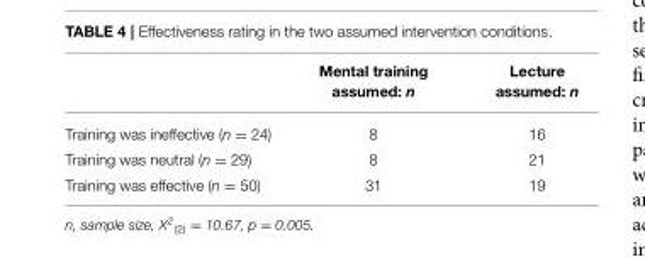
<table><thead><tr><td></td><td>Mental training assumed: n</td><td>Lecture assumed: n</td></tr></thead><tbody><tr><td>Training was ineffective (n = 24)</td><td>8</td><td>16</td></tr><tr><td>Training was neutral (n = 29)</td><td>8</td><td>21</td></tr><tr><td>Training was effective (n = 50)</td><td>31</td><td>19</td></tr></tbody></table>